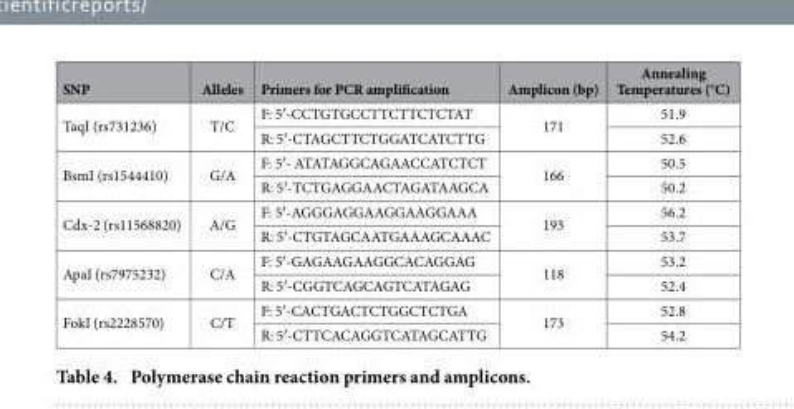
<table><thead><tr><td>SNP</td><td>Alleles</td><td>Primers for PCR amplification</td><td>Amplicon (bp)</td><td>Annealing Temperatures (°C)</td></tr></thead><tbody><tr><td rowspan="2">TaqI (rs731236)</td><td rowspan="2">T/C</td><td>F: 5′ -CCTGTGCCTTCTTCTCTAT</td><td rowspan="2">171</td><td>51.9</td></tr><tr><td>R: 5′ -CTAGCTTCTGGATCATCTTG</td><td>52.6</td></tr><tr><td rowspan="2">BsmI (rs1544410)</td><td rowspan="2">G/A</td><td>F: 5′ - ATATAGGCAGAACCATCTCT</td><td rowspan="2">166</td><td>50.5</td></tr><tr><td>R: 5′ -TCTGAGGAACTAGATAAGCA</td><td>50.2</td></tr><tr><td rowspan="2">Cdx-2 (rs11568820)</td><td rowspan="2">A/G</td><td>F: 5′ -AGGGAGGAAGGAAGGAAA</td><td rowspan="2">193</td><td>56.2</td></tr><tr><td>R: 5′ -CTGTAGCAATGAAAGCAAAC</td><td>53.7</td></tr><tr><td rowspan="2">ApaI (rs7975232)</td><td rowspan="2">C/A</td><td>F: 5′ -GAGAAGAAGGCACAGGAG</td><td rowspan="2">118</td><td>53.2</td></tr><tr><td>R: 5′ -CGGTCAGCAGTCATAGAG</td><td>52.4</td></tr><tr><td rowspan="2">FokI (rs2228570)</td><td rowspan="2">C/T</td><td>F: 5′ -CACTGACTCTGGCTCTGA</td><td rowspan="2">173</td><td>52.8</td></tr><tr><td>R: 5′ -CTTCACAGGTCATAGCATTG</td><td>54.2</td></tr></tbody></table>